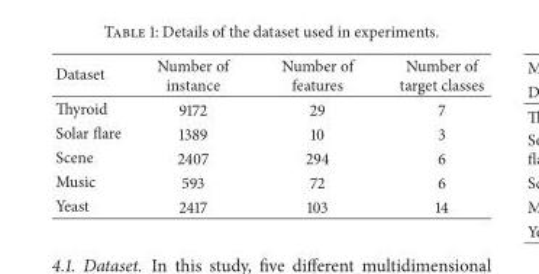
<table><thead><tr><td>Dataset</td><td>Number of instance</td><td>Number of features</td><td>Number of target classes</td></tr></thead><tbody><tr><td>Thyroid</td><td>9172</td><td>29</td><td>7</td></tr><tr><td>Solar flare</td><td>1389</td><td>10</td><td>3</td></tr><tr><td>Scene</td><td>2407</td><td>294</td><td>6</td></tr><tr><td>Music</td><td>593</td><td>72</td><td>6</td></tr><tr><td>Yeast</td><td>2417</td><td>103</td><td>14</td></tr></tbody></table>